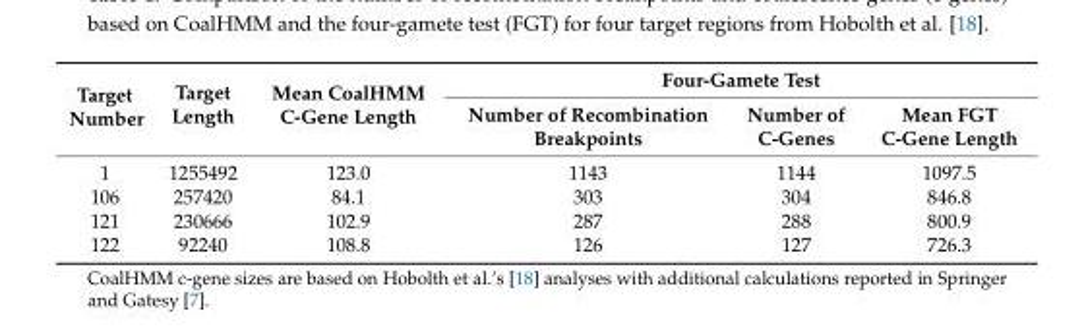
<table><thead><tr><td rowspan="2">Target Number</td><td rowspan="2">Target Length</td><td rowspan="2">Mean CoalHMM C-Gene Length</td><td colspan="3">Four-Gamete Test</td></tr><tr><td>Number of Recombination Breakpoints</td><td>Number of C-Genes</td><td>Mean FGT C-Gene Length</td></tr></thead><tbody><tr><td>1</td><td>1255492</td><td>123.0</td><td>1143</td><td>1144</td><td>1097.5</td></tr><tr><td>106</td><td>257420</td><td>84.1</td><td>303</td><td>304</td><td>846.8</td></tr><tr><td>121</td><td>230666</td><td>102.9</td><td>287</td><td>288</td><td>800.9</td></tr><tr><td>122</td><td>92240</td><td>108.8</td><td>126</td><td>127</td><td>726.3</td></tr></tbody></table>